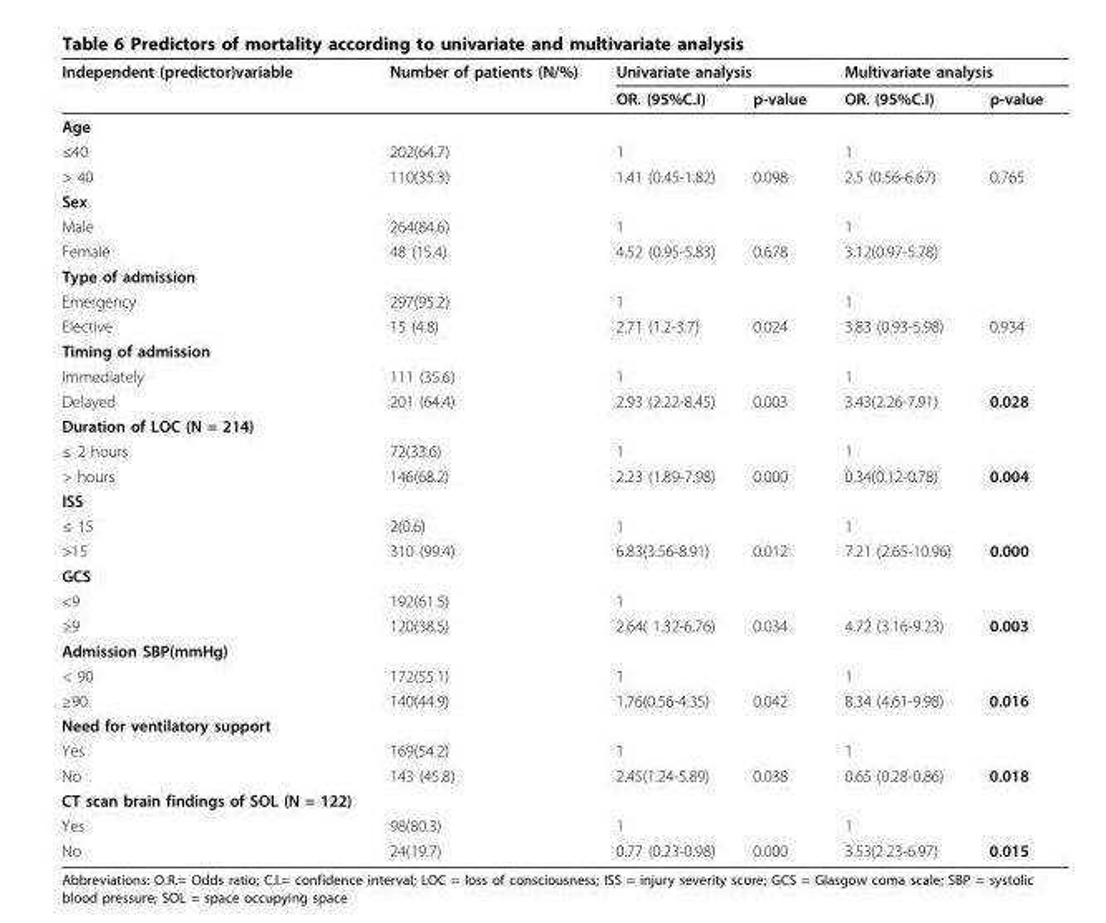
<table><thead><tr><td rowspan="2">Independent (predictor)variable</td><td rowspan="2">Number of patients (N/%)</td><td colspan="2">Univariate analysis</td><td colspan="2">Multivariate analysis</td></tr><tr><td>OR. (95%C.I)</td><td>p-value</td><td>OR. (95%C.I)</td><td>p-value</td></tr></thead><tbody><tr><td colspan="6">Age</td></tr><tr><td>≤40</td><td>202(64.7)</td><td>1</td><td></td><td>1</td><td></td></tr><tr><td>&gt; 40</td><td>110(35.3)</td><td>1.41 (0.45-1.82)</td><td>0.098</td><td>2.5 (0.56-6.67)</td><td>0.765</td></tr><tr><td colspan="6">Sex</td></tr><tr><td>Male</td><td>264(84.6)</td><td>1</td><td></td><td>1</td><td></td></tr><tr><td>Female</td><td>48 (15.4)</td><td>4.52 (0.95-5.83)</td><td>0.678</td><td>3.12(0.97-5.78)</td><td></td></tr><tr><td colspan="6">Type of admission</td></tr><tr><td>Emergency</td><td>297(95.2)</td><td>1</td><td></td><td>1</td><td></td></tr><tr><td>Elective</td><td>15 (4.8)</td><td>2.71 (1.2-3.7)</td><td>0.024</td><td>3.83 (0.93-5.98)</td><td>0.934</td></tr><tr><td colspan="6">Timing of admission</td></tr><tr><td>Immediately</td><td>111 (35.6)</td><td>1</td><td></td><td>1</td><td></td></tr><tr><td>Delayed</td><td>201 (64.4)</td><td>2.93 (2.22-8.45)</td><td>0.003</td><td>3.43(2.26-7.91)</td><td>0.028</td></tr><tr><td colspan="6">Duration of LOC (N = 214)</td></tr><tr><td>≤ 2 hours</td><td>72(33.6)</td><td>1</td><td></td><td>1</td><td></td></tr><tr><td>&gt; hours</td><td>146(68.2)</td><td>2.23 (1.89-7.98)</td><td>0.000</td><td>0.34(0.12-0.78)</td><td>0.004</td></tr><tr><td colspan="6">ISS</td></tr><tr><td>≤ 15</td><td>2(0.6)</td><td>1</td><td></td><td>1</td><td></td></tr><tr><td>&gt;15</td><td>310 (99.4)</td><td>6.83(3.56-8.91)</td><td>0.012</td><td>7.21 (2.65-10.96)</td><td>0.000</td></tr><tr><td colspan="6">GCS</td></tr><tr><td>&lt;9</td><td>192(61.5)</td><td>1</td><td></td><td></td><td></td></tr><tr><td>≥9</td><td>120(38.5)</td><td>2.64( 1.32-6.76)</td><td>0.034</td><td>4.72 (3.16-9.23)</td><td>0.003</td></tr><tr><td colspan="6">Admission SBP(mmHg)</td></tr><tr><td>&lt; 90</td><td>172(55.1)</td><td>1</td><td></td><td>1</td><td></td></tr><tr><td>≥90</td><td>140(44.9)</td><td>1.76(0.56-4.35)</td><td>0.042</td><td>8.34 (4.61-9.98)</td><td>0.016</td></tr><tr><td colspan="6">Need for ventilatory support</td></tr><tr><td>Yes</td><td>169(54.2)</td><td>1</td><td></td><td>1</td><td></td></tr><tr><td>No</td><td>143 (45.8)</td><td>2.45(1.24-5.89)</td><td>0.038</td><td>0.65 (0.28-0.86)</td><td>0.018</td></tr><tr><td colspan="6">CT scan brain findings of SOL (N = 122)</td></tr><tr><td>Yes</td><td>98(80.3)</td><td>1</td><td></td><td>1</td><td></td></tr><tr><td>No</td><td>24(19.7)</td><td>0.77 (0.23-0.98)</td><td>0.000</td><td>3.53(2.23-6.97)</td><td>0.015</td></tr></tbody></table>